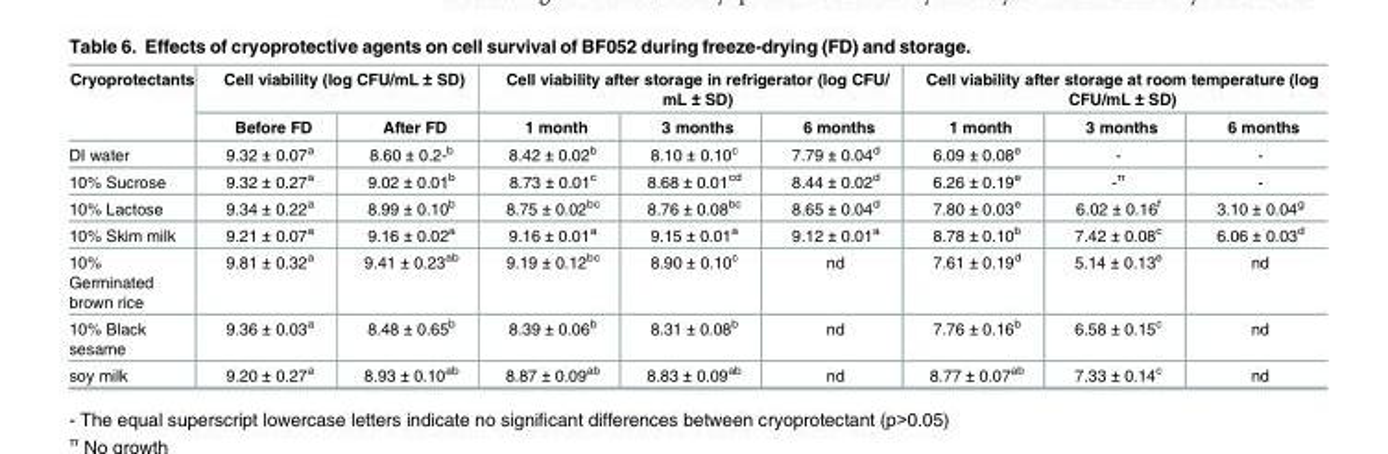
<table><thead><tr><td rowspan="2">Cryoprotectants</td><td colspan="2">Cell viability (log CFU/mL ± SD)</td><td colspan="3">Cell viability after storage in refrigerator (log CFU/ mL ± SD)</td><td colspan="3">Cell viability after storage at room temperature (log CFU/mL ± SD)</td></tr><tr><td>Before FD</td><td>After FD</td><td>1 month</td><td>3 months</td><td>6 months</td><td>1 month</td><td>3 months</td><td>6 months</td></tr></thead><tbody><tr><td>DI water</td><td>9.32 ± 0.07<sup>a</sup></td><td>8.60 ± 0.2-<sup>b</sup></td><td>8.42 ± 0.02<sup>b</sup></td><td>8.10 ± 0.10<sup>c</sup></td><td>7.79 ± 0.04<sup>d</sup></td><td>6.09 ± 0.08<sup>e</sup></td><td>-</td><td>-</td></tr><tr><td>10% Sucrose</td><td>9.32 ± 0.27<sup>a</sup></td><td>9.02 ± 0.01<sup>b</sup></td><td>8.73 ± 0.01<sup>c</sup></td><td>8.68 ± 0.01<sup>cd</sup></td><td>8.44 ± 0.02<sup>d</sup></td><td>6.26 ± 0.19<sup>e</sup></td><td>-<sup>π</sup></td><td>-</td></tr><tr><td>10% Lactose</td><td>9.34 ± 0.22<sup>a</sup></td><td>8.99 ± 0.10<sup>b</sup></td><td>8.75 ± 0.02<sup>bc</sup></td><td>8.76 ± 0.08<sup>bc</sup></td><td>8.65 ± 0.04<sup>d</sup></td><td>7.80 ± 0.03<sup>e</sup></td><td>6.02 ± 0.16<sup>f</sup></td><td>3.10 ± 0.04<sup>g</sup></td></tr><tr><td>10% Skim milk</td><td>9.21 ± 0.07<sup>a</sup></td><td>9.16 ± 0.02<sup>a</sup></td><td>9.16 ± 0.01<sup>a</sup></td><td>9.15 ± 0.01<sup>a</sup></td><td>9.12 ± 0.01<sup>a</sup></td><td>8.78 ± 0.10<sup>b</sup></td><td>7.42 ± 0.08<sup>c</sup></td><td>6.06 ± 0.03<sup>d</sup></td></tr><tr><td>10% Germinated brown rice</td><td>9.81 ± 0.32<sup>a</sup></td><td>9.41 ± 0.23<sup>ab</sup></td><td>9.19 ± 0.12<sup>bc</sup></td><td>8.90 ± 0.10<sup>c</sup></td><td>nd</td><td>7.61 ± 0.19<sup>d</sup></td><td>5.14 ± 0.13<sup>e</sup></td><td>nd</td></tr><tr><td>10% Black sesame</td><td>9.36 ± 0.03<sup>a</sup></td><td>8.48 ± 0.65<sup>b</sup></td><td>8.39 ± 0.06<sup>b</sup></td><td>8.31 ± 0.08<sup>b</sup></td><td>nd</td><td>7.76 ± 0.16<sup>b</sup></td><td>6.58 ± 0.15<sup>c</sup></td><td>nd</td></tr><tr><td>soy milk</td><td>9.20 ± 0.27<sup>a</sup></td><td>8.93 ± 0.10<sup>ab</sup></td><td>8.87 ± 0.09<sup>ab</sup></td><td>8.83 ± 0.09<sup>ab</sup></td><td>nd</td><td>8.77 ± 0.07<sup>ab</sup></td><td>7.33 ± 0.14<sup>c</sup></td><td>nd</td></tr></tbody></table>